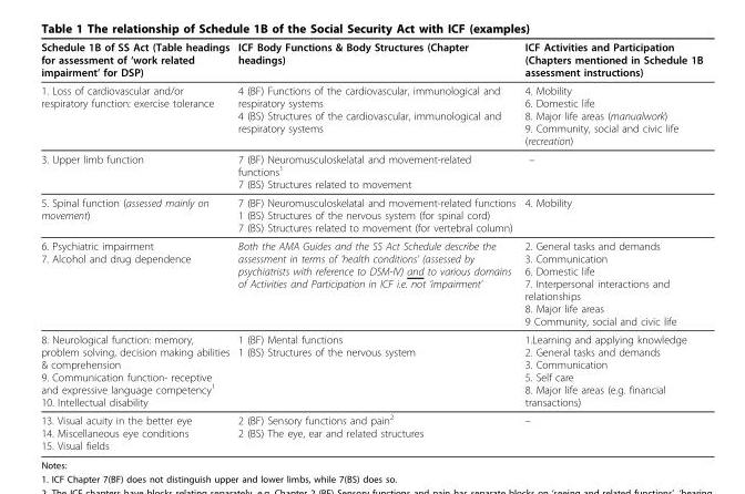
<table><thead><tr><td>Schedule 1B of SS Act (Table headings for assessment of ‘work related impairment’ for DSP)</td><td>ICF Body Functions &amp; Body Structures (Chapter headings)</td><td>ICF Activities and Participation (Chapters mentioned in Schedule 1B assessment instructions)</td></tr></thead><tbody><tr><td>1. Loss of cardiovascular and/or respiratory function: exercise tolerance</td><td>4 (BF) Functions of the cardiovascular, immunological and respiratory systems 4 (BS) Structures of the cardiovascular, immunological and respiratory systems</td><td>4. Mobility 6. Domestic life 8. Major life areas (manualwork) 9. Community, social and civic life (recreation)</td></tr><tr><td>3. Upper limb function</td><td>7 (BF) Neuromusculoskelatal and movement-related functions<sup>1</sup> 7 (BS) Structures related to movement</td><td>–</td></tr><tr><td>5. Spinal function (assessed mainly on movement)</td><td>7 (BF) Neuromusculoskelatal and movement-related functions 1 (BS) Structures of the nervous system (for spinal cord) 7 (BS) Structures related to movement (for vertebral column)</td><td>4. Mobility</td></tr><tr><td>6. Psychiatric impairment 7. Alcohol and drug dependence</td><td>Both the AMA Guides and the SS Act Schedule describe the assessment in terms of ‘health conditions’ (assessed by psychiatrists with reference to DSM-IV) and to various domains of Activities and Participation in ICF i.e. not ‘impairment’</td><td>2. General tasks and demands 3. Communication 6. Domestic life 7. Interpersonal interactions and relationships 8. Major life areas 9 Community, social and civic life</td></tr><tr><td>8. Neurological function: memory, problem solving, decision making abilities &amp; comprehension 9. Communication function- receptive and expressive language competency<sup>1</sup> 10. Intellectual disability</td><td>1 (BF) Mental functions 1 (BS) Structures of the nervous system</td><td>1.Learning and applying knowledge 2. General tasks and demands 3. Communication 5. Self care 8. Major life areas (e.g. financial transactions)</td></tr><tr><td>13. Visual acuity in the better eye 14. Miscellaneous eye conditions 15. Visual fields</td><td>2 (BF) Sensory functions and pain<sup>2</sup> 2 (BS) The eye, ear and related structures</td><td>–</td></tr></tbody></table>